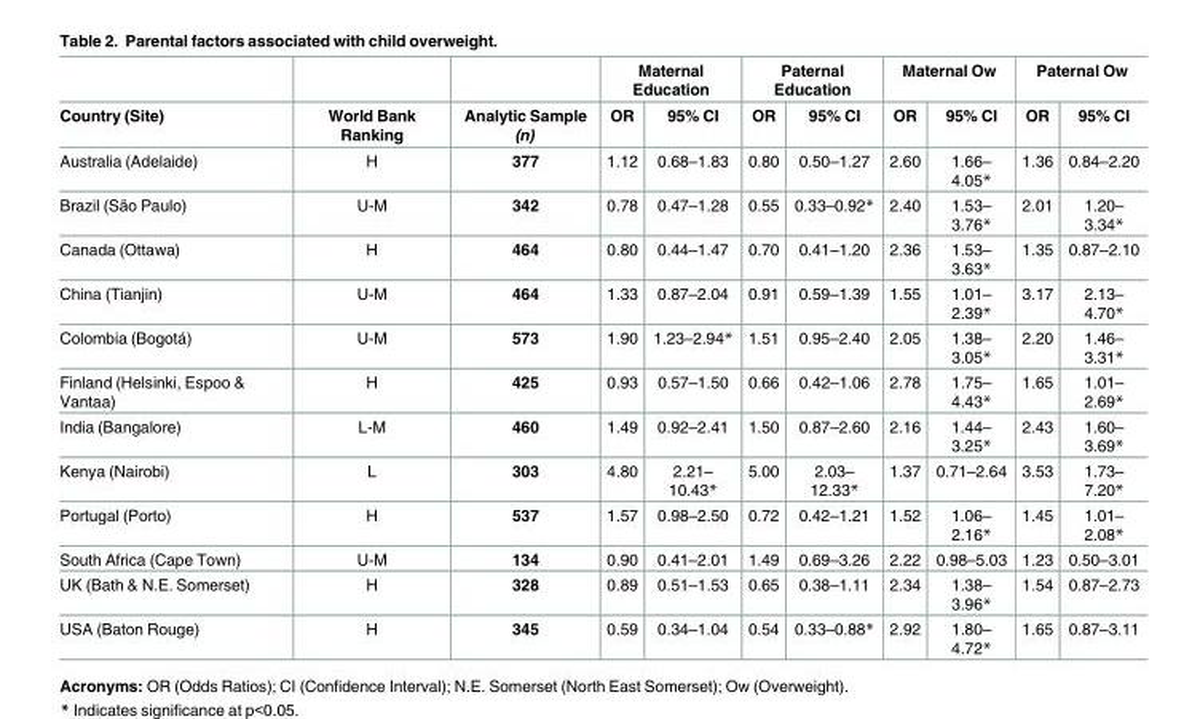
<table><thead><tr><td rowspan="2">Country (Site)</td><td rowspan="2">World Bank Ranking</td><td rowspan="2">Analytic Sample (n)</td><td colspan="2">Maternal Education</td><td colspan="2">Paternal Education</td><td colspan="2">Maternal Ow</td><td colspan="2">Paternal Ow</td></tr><tr><td>OR</td><td>95% CI</td><td>OR</td><td>95% CI</td><td>OR</td><td>95% CI</td><td>OR</td><td>95% CI</td></tr></thead><tbody><tr><td>Australia (Adelaide)</td><td>H</td><td>377</td><td>1.12</td><td>0.68–1.83</td><td>0.80</td><td>0.50–1.27</td><td>2.60</td><td>1.66– 4.05*</td><td>1.36</td><td>0.84–2.20</td></tr><tr><td>Brazil (São Paulo)</td><td>U-M</td><td>342</td><td>0.78</td><td>0.47–1.28</td><td>0.55</td><td>0.33–0.92*</td><td>2.40</td><td>1.53– 3.76*</td><td>2.01</td><td>1.20– 3.34*</td></tr><tr><td>Canada (Ottawa)</td><td>H</td><td>464</td><td>0.80</td><td>0.44–1.47</td><td>0.70</td><td>0.41–1.20</td><td>2.36</td><td>1.53– 3.63*</td><td>1.35</td><td>0.87–2.10</td></tr><tr><td>China (Tianjin)</td><td>U-M</td><td>464</td><td>1.33</td><td>0.87–2.04</td><td>0.91</td><td>0.59–1.39</td><td>1.55</td><td>1.01– 2.39*</td><td>3.17</td><td>2.13– 4.70*</td></tr><tr><td>Colombia (Bogotá)</td><td>U-M</td><td>573</td><td>1.90</td><td>1.23–2.94*</td><td>1.51</td><td>0.95–2.40</td><td>2.05</td><td>1.38– 3.05*</td><td>2.20</td><td>1.46– 3.31*</td></tr><tr><td>Finland (Helsinki, Espoo &amp; Vantaa)</td><td>H</td><td>425</td><td>0.93</td><td>0.57–1.50</td><td>0.66</td><td>0.42–1.06</td><td>2.78</td><td>1.75– 4.43*</td><td>1.65</td><td>1.01– 2.69*</td></tr><tr><td>India (Bangalore)</td><td>L-M</td><td>460</td><td>1.49</td><td>0.92–2.41</td><td>1.50</td><td>0.87–2.60</td><td>2.16</td><td>1.44– 3.25*</td><td>2.43</td><td>1.60– 3.69*</td></tr><tr><td>Kenya (Nairobi)</td><td>L</td><td>303</td><td>4.80</td><td>2.21– 10.43*</td><td>5.00</td><td>2.03– 12.33*</td><td>1.37</td><td>0.71–2.64</td><td>3.53</td><td>1.73– 7.20*</td></tr><tr><td>Portugal (Porto)</td><td>H</td><td>537</td><td>1.57</td><td>0.98–2.50</td><td>0.72</td><td>0.42–1.21</td><td>1.52</td><td>1.06– 2.16*</td><td>1.45</td><td>1.01– 2.08*</td></tr><tr><td>South Africa (Cape Town)</td><td>U-M</td><td>134</td><td>0.90</td><td>0.41–2.01</td><td>1.49</td><td>0.69–3.26</td><td>2.22</td><td>0.98–5.03</td><td>1.23</td><td>0.50–3.01</td></tr><tr><td>UK (Bath &amp; N.E. Somerset)</td><td>H</td><td>328</td><td>0.89</td><td>0.51–1.53</td><td>0.65</td><td>0.38–1.11</td><td>2.34</td><td>1.38– 3.96*</td><td>1.54</td><td>0.87–2.73</td></tr><tr><td>USA (Baton Rouge)</td><td>H</td><td>345</td><td>0.59</td><td>0.34–1.04</td><td>0.54</td><td>0.33–0.88*</td><td>2.92</td><td>1.80– 4.72*</td><td>1.65</td><td>0.87–3.11</td></tr></tbody></table>